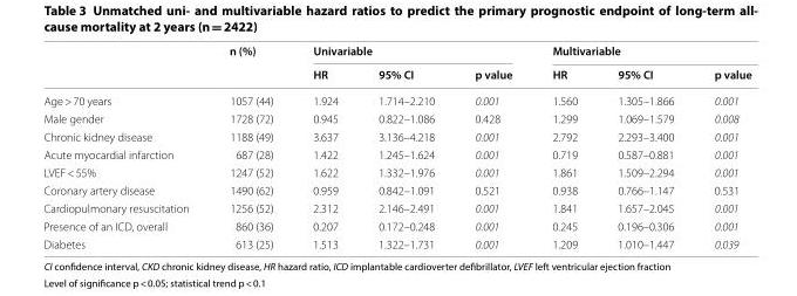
<table><thead><tr><td rowspan="2"></td><td rowspan="2">n (%)</td><td colspan="3">Univariable</td><td colspan="3">Multivariable</td></tr><tr><td>HR</td><td>95% CI</td><td>p value</td><td>HR</td><td>95% CI</td><td>p value</td></tr></thead><tbody><tr><td>Age &gt; 70 years</td><td>1057 (44)</td><td>1.924</td><td>1.714–2.210</td><td>0.001</td><td>1.560</td><td>1.305–1.866</td><td>0.001</td></tr><tr><td>Male gender</td><td>1728 (72)</td><td>0.945</td><td>0.822–1.086</td><td>0.428</td><td>1.299</td><td>1.069–1.579</td><td>0.008</td></tr><tr><td>Chronic kidney disease</td><td>1188 (49)</td><td>3.637</td><td>3.136–4.218</td><td>0.001</td><td>2.792</td><td>2.293–3.400</td><td>0.001</td></tr><tr><td>Acute myocardial infarction</td><td>687 (28)</td><td>1.422</td><td>1.245–1.624</td><td>0.001</td><td>0.719</td><td>0.587–0.881</td><td>0.001</td></tr><tr><td>LVEF &lt; 55%</td><td>1247 (52)</td><td>1.622</td><td>1.332–1.976</td><td>0.001</td><td>1.861</td><td>1.509–2.294</td><td>0.001</td></tr><tr><td>Coronary artery disease</td><td>1490 (62)</td><td>0.959</td><td>0.842–1.091</td><td>0.521</td><td>0.938</td><td>0.766–1.147</td><td>0.531</td></tr><tr><td>Cardiopulmonary resuscitation</td><td>1256 (52)</td><td>2.312</td><td>2.146–2.491</td><td>0.001</td><td>1.841</td><td>1.657–2.045</td><td>0.001</td></tr><tr><td>Presence of an ICD, overall</td><td>860 (36)</td><td>0.207</td><td>0.172–0.248</td><td>0.001</td><td>0.245</td><td>0.196–0.306</td><td>0.001</td></tr><tr><td>Diabetes</td><td>613 (25)</td><td>1.513</td><td>1.322–1.731</td><td>0.001</td><td>1.209</td><td>1.010–1.447</td><td>0.039</td></tr></tbody></table>